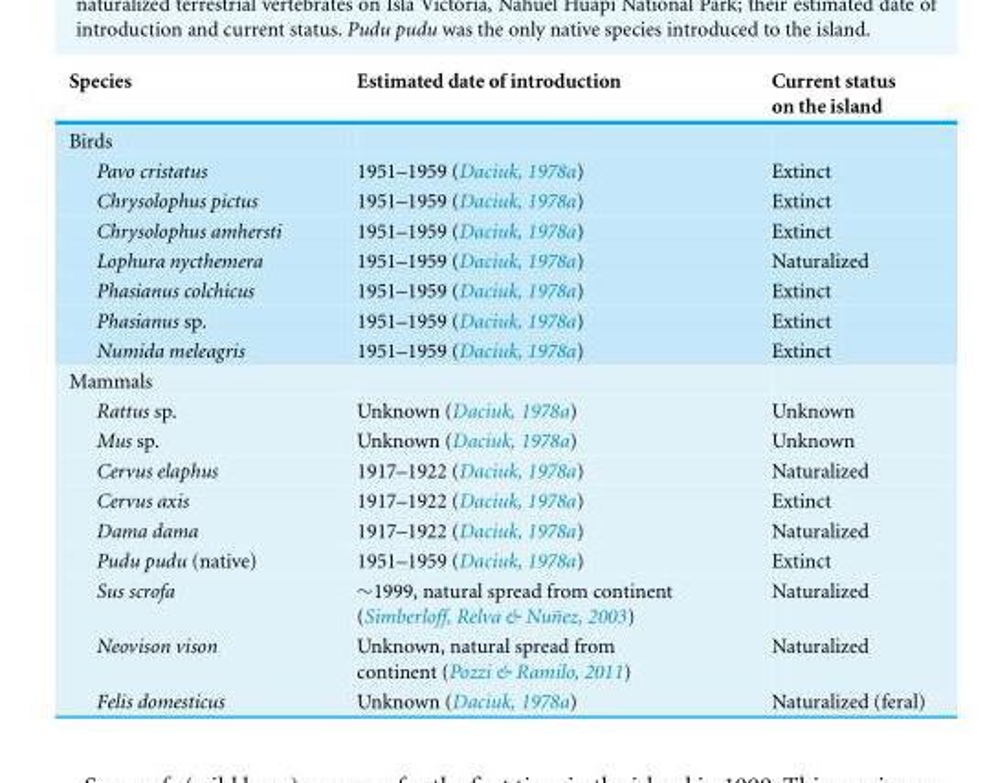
<table><thead><tr><td>Species</td><td>Estimated date of introduction</td><td>Current status on the island</td></tr></thead><tbody><tr><td colspan="3">Birds</td></tr><tr><td>Pavo cristatus</td><td>1951–1959 (Daciuk, 1978a)</td><td>Extinct</td></tr><tr><td>Chrysolophus pictus</td><td>1951–1959 (Daciuk, 1978a)</td><td>Extinct</td></tr><tr><td>Chrysolophus amhersti</td><td>1951–1959 (Daciuk, 1978a)</td><td>Extinct</td></tr><tr><td>Lophura nycthemera</td><td>1951–1959 (Daciuk, 1978a)</td><td>Naturalized</td></tr><tr><td>Phasianus colchicus</td><td>1951–1959 (Daciuk, 1978a)</td><td>Extinct</td></tr><tr><td>Phasianus sp.</td><td>1951–1959 (Daciuk, 1978a)</td><td>Extinct</td></tr><tr><td>Numida meleagris</td><td>1951–1959 (Daciuk, 1978a)</td><td>Extinct</td></tr><tr><td colspan="3">Mammals</td></tr><tr><td>Rattus sp.</td><td>Unknown (Daciuk, 1978a)</td><td>Unknown</td></tr><tr><td>Mus sp.</td><td>Unknown (Daciuk, 1978a)</td><td>Unknown</td></tr><tr><td>Cervus elaphus</td><td>1917–1922 (Daciuk, 1978a)</td><td>Naturalized</td></tr><tr><td>Cervus axis</td><td>1917–1922 (Daciuk, 1978a)</td><td>Extinct</td></tr><tr><td>Dama dama</td><td>1917–1922 (Daciuk, 1978a)</td><td>Naturalized</td></tr><tr><td>Pudu pudu (native)</td><td>1951–1959 (Daciuk, 1978a)</td><td>Extinct</td></tr><tr><td>Sus scrofa</td><td>∼1999, natural spread from continent (Simberloff, Relva &amp; Nu˜nez, 2003)</td><td>Naturalized</td></tr><tr><td>Neovison vison</td><td>Unknown, natural spread from continent (Pozzi &amp; Ramilo, 2011)</td><td>Naturalized</td></tr><tr><td>Felis domesticus</td><td>Unknown (Daciuk, 1978a)</td><td>Naturalized (feral)</td></tr></tbody></table>